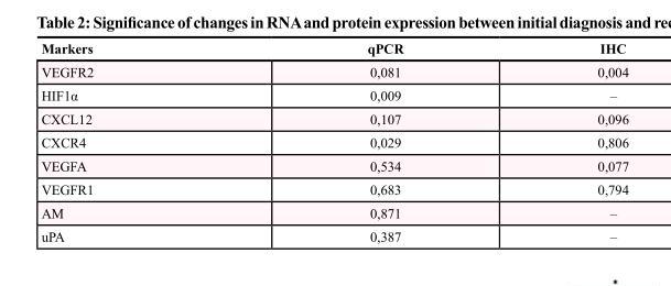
<table><thead><tr><td>Markers</td><td>qPCR</td><td>IHC</td></tr></thead><tbody><tr><td>VEGFR2</td><td>0,081</td><td>0,004</td></tr><tr><td>HIF1α</td><td>0,009</td><td>–</td></tr><tr><td>CXCL12</td><td>0,107</td><td>0,096</td></tr><tr><td>CXCR4</td><td>0,029</td><td>0,806</td></tr><tr><td>VEGFA</td><td>0,534</td><td>0,077</td></tr><tr><td>VEGFR1</td><td>0,683</td><td>0,794</td></tr><tr><td>AM</td><td>0,871</td><td>–</td></tr><tr><td>uPA</td><td>0,387</td><td>–</td></tr></tbody></table>